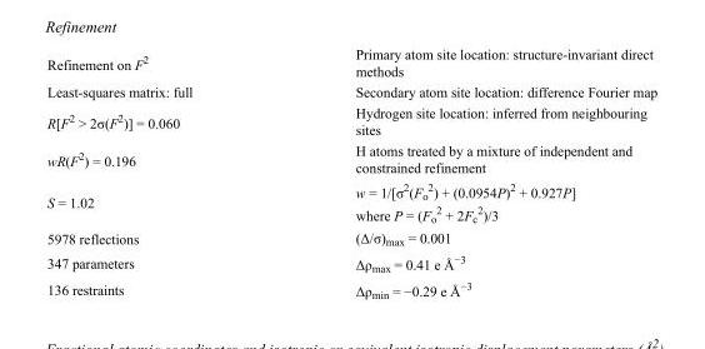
<table><tbody><tr><td>Refinement on F<sup>2</sup></td><td>Primary atom site location: structure-invariant direct methods</td></tr><tr><td>Least-squares matrix: full</td><td>Secondary atom site location: difference Fourier map</td></tr><tr><td>R[F<sup>2</sup> &gt; 2σ(F<sup>2</sup>)] = 0.060</td><td>Hydrogen site location: inferred from neighbouring sites</td></tr><tr><td>wR(F<sup>2</sup>) = 0.196</td><td>H atoms treated by a mixture of independent and constrained refinement</td></tr><tr><td>S = 1.02</td><td>w = 1/[σ<sup>2</sup>(F<sub>o</sub> <sup>2</sup>) + (0.0954P)<sup>2</sup> + 0.927P] where P = (F<sub>o</sub> <sup>2</sup> + 2F<sub>c</sub> <sup>2</sup>)/3</td></tr><tr><td>5978 reflections</td><td>(Δ/σ)<sub>max</sub> = 0.001</td></tr><tr><td>347 parameters</td><td>Δρ<sub>max</sub> = 0.41 e Å<sup>−3</sup></td></tr><tr><td>136 restraints</td><td>Δρ<sub>min</sub> = −0.29 e Å<sup>−3</sup></td></tr></tbody></table>